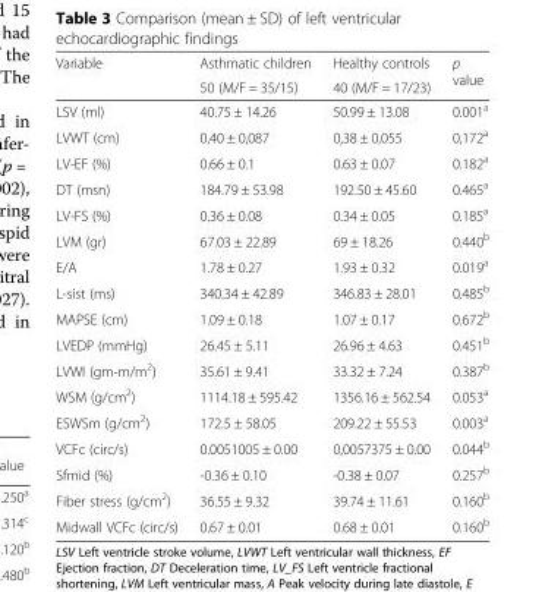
<table><thead><tr><td rowspan="2">Variable</td><td rowspan="2">Asthmatic children 50 (M/F = 35/15)</td><td rowspan="2">Healthy controls 40 (M/F = 17/23)</td><td rowspan="2">p value</td></tr><tr></tr></thead><tbody><tr><td>LSV (ml)</td><td>40.75 ± 14.26</td><td>50.99 ± 13.08</td><td>0.001<sup>a</sup></td></tr><tr><td>LVWT (cm)</td><td>0,40 ± 0,087</td><td>0,38 ± 0,055</td><td>0,172<sup>a</sup></td></tr><tr><td>LV-EF (%)</td><td>0.66 ± 0.1</td><td>0.63 ± 0.07</td><td>0.182<sup>a</sup></td></tr><tr><td>DT (msn)</td><td>184.79 ± 53.98</td><td>192.50 ± 45.60</td><td>0.465<sup>a</sup></td></tr><tr><td>LV-FS (%)</td><td>0.36 ± 0.08</td><td>0.34 ± 0.05</td><td>0.185<sup>a</sup></td></tr><tr><td>LVM (gr)</td><td>67.03 ± 22.89</td><td>69 ± 18.26</td><td>0.440<sup>b</sup></td></tr><tr><td>E/A</td><td>1.78 ± 0.27</td><td>1.93 ± 0.32</td><td>0.019<sup>a</sup></td></tr><tr><td>L-sist (ms)</td><td>340.34 ± 42.89</td><td>346.83 ± 28.01</td><td>0.485<sup>b</sup></td></tr><tr><td>MAPSE (cm)</td><td>1.09 ± 0.18</td><td>1.07 ± 0.17</td><td>0.672<sup>b</sup></td></tr><tr><td>LVEDP (mmHg)</td><td>26.45 ± 5.11</td><td>26.96 ± 4.63</td><td>0.451<sup>b</sup></td></tr><tr><td>LVWI (gm-m/m<sup>2</sup>)</td><td>35.61 ± 9.41</td><td>33.32 ± 7.24</td><td>0.387<sup>b</sup></td></tr><tr><td>WSM (g/cm<sup>2</sup>)</td><td>1114.18 ± 595.42</td><td>1356.16 ± 562.54</td><td>0.053<sup>a</sup></td></tr><tr><td>ESWSm (g/cm<sup>2</sup>)</td><td>172.5 ± 58.05</td><td>209.22 ± 55.53</td><td>0.003<sup>a</sup></td></tr><tr><td>VCFc (circ/s)</td><td>0.0051005 ± 0.00</td><td>0,0057375 ± 0.00</td><td>0.044<sup>b</sup></td></tr><tr><td>Sfmid (%)</td><td>-0.36 ± 0.10</td><td>-0.38 ± 0.07</td><td>0.257<sup>b</sup></td></tr><tr><td>Fiber stress (g/cm<sup>2</sup>)</td><td>36.55 ± 9.32</td><td>39.74 ± 11.61</td><td>0.160<sup>b</sup></td></tr><tr><td>Midwall VCFc (circ/s)</td><td>0.67 ± 0.01</td><td>0.68 ± 0.01</td><td>0.160<sup>b</sup></td></tr></tbody></table>